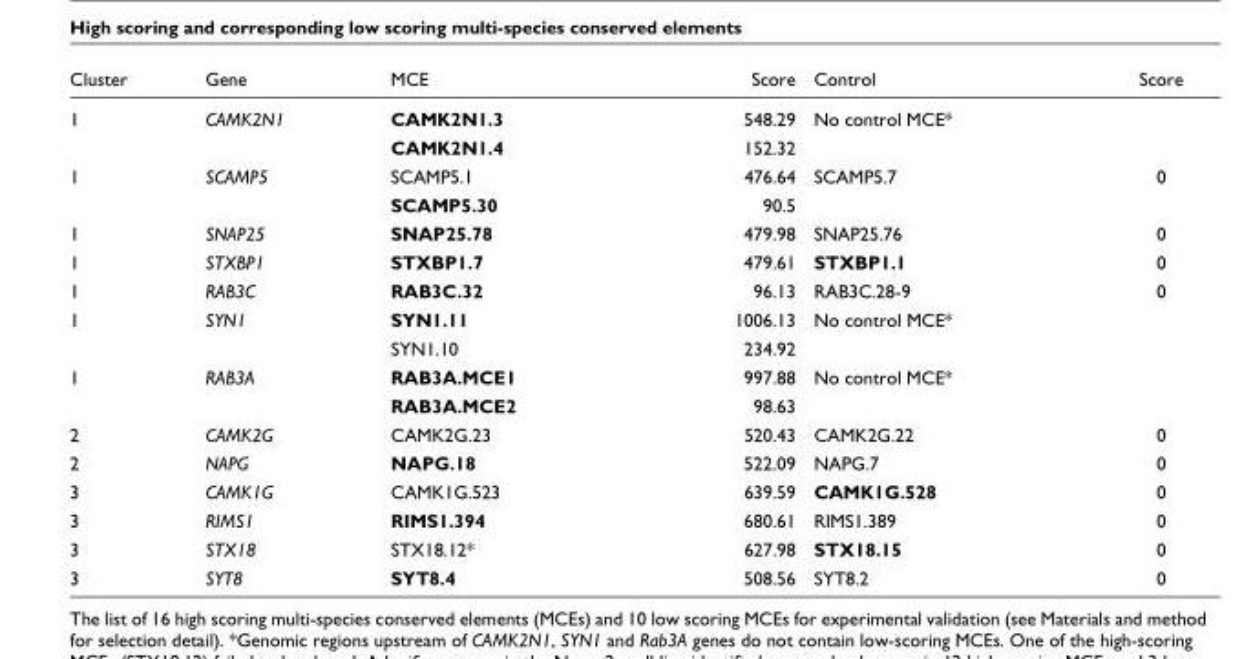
<table><thead><tr><td>Cluster</td><td>Gene</td><td>MCE</td><td>Score</td><td>Control</td><td>Score</td></tr></thead><tbody><tr><td rowspan="2">1</td><td>CAMK2N1</td><td>CAMK2N1.3</td><td>548.29</td><td>No control MCE*</td><td></td></tr><tr><td></td><td>CAMK2N1.4</td><td>152.32</td><td></td><td></td></tr><tr><td rowspan="2">1</td><td>SCAMP5</td><td>SCAMP5.1</td><td>476.64</td><td>SCAMP5.7</td><td>0</td></tr><tr><td></td><td>SCAMP5.30</td><td>90.5</td><td></td><td></td></tr><tr><td>1</td><td>SNAP25</td><td>SNAP25.78</td><td>479.98</td><td>SNAP25.76</td><td>0</td></tr><tr><td>1</td><td>STXBP1</td><td>STXBP1.7</td><td>479.61</td><td>STXBP1.1</td><td>0</td></tr><tr><td>1</td><td>RAB3C</td><td>RAB3C.32</td><td>96.13</td><td>RAB3C.28-9</td><td>0</td></tr><tr><td rowspan="2">1</td><td>SYN1</td><td>SYN1.11</td><td>1006.13</td><td>No control MCE*</td><td></td></tr><tr><td></td><td>SYN1.10</td><td>234.92</td><td></td><td></td></tr><tr><td rowspan="2">1</td><td>RAB3A</td><td>RAB3A.MCE1</td><td>997.88</td><td>No control MCE*</td><td></td></tr><tr><td></td><td>RAB3A.MCE2</td><td>98.63</td><td></td><td></td></tr><tr><td>2</td><td>CAMK2G</td><td>CAMK2G.23</td><td>520.43</td><td>CAMK2G.22</td><td>0</td></tr><tr><td>2</td><td>NAPG</td><td>NAPG.18</td><td>522.09</td><td>NAPG.7</td><td>0</td></tr><tr><td>3</td><td>CAMK1G</td><td>CAMK1G.523</td><td>639.59</td><td>CAMK1G.528</td><td>0</td></tr><tr><td>3</td><td>RIMS1</td><td>RIMS1.394</td><td>680.61</td><td>RIMS1.389</td><td>0</td></tr><tr><td>3</td><td>STX18</td><td>STX18.12*</td><td>627.98</td><td>STX18.15</td><td>0</td></tr><tr><td>3</td><td>SYT8</td><td>SYT8.4</td><td>508.56</td><td>SYT8.2</td><td>0</td></tr></tbody></table>